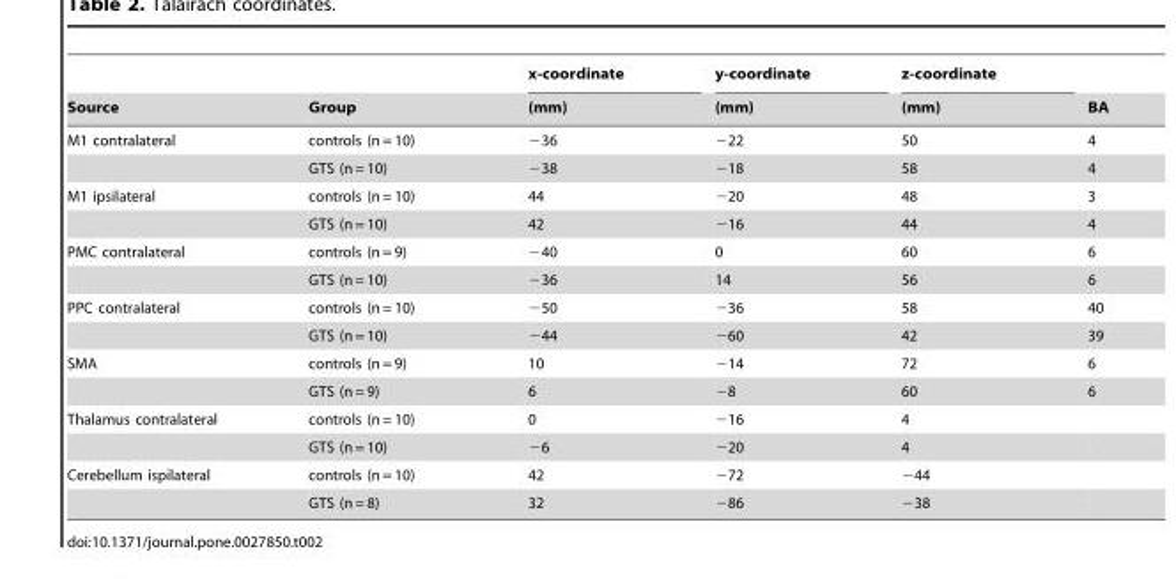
<table><thead><tr><td rowspan="2">Source</td><td rowspan="2">Group</td><td rowspan="2">x-coordinate (mm)</td><td rowspan="2">y-coordinate (mm)</td><td rowspan="2">z-coordinate (mm)</td><td rowspan="2">BA</td></tr><tr></tr></thead><tbody><tr><td rowspan="2">M1 contralateral</td><td>controls (n = 10)</td><td>−36</td><td>−22</td><td>50</td><td>4</td></tr><tr><td>GTS (n = 10)</td><td>−38</td><td>−18</td><td>58</td><td>4</td></tr><tr><td rowspan="2">M1 ipsilateral</td><td>controls (n = 10)</td><td>44</td><td>−20</td><td>48</td><td>3</td></tr><tr><td>GTS (n = 10)</td><td>42</td><td>−16</td><td>44</td><td>4</td></tr><tr><td rowspan="2">PMC contralateral</td><td>controls (n = 9)</td><td>−40</td><td>0</td><td>60</td><td>6</td></tr><tr><td>GTS (n = 10)</td><td>−36</td><td>14</td><td>56</td><td>6</td></tr><tr><td rowspan="2">PPC contralateral</td><td>controls (n = 10)</td><td>−50</td><td>−36</td><td>58</td><td>40</td></tr><tr><td>GTS (n = 10)</td><td>−44</td><td>−60</td><td>42</td><td>39</td></tr><tr><td rowspan="2">SMA</td><td>controls (n = 9)</td><td>10</td><td>−14</td><td>72</td><td>6</td></tr><tr><td>GTS (n = 9)</td><td>6</td><td>−8</td><td>60</td><td>6</td></tr><tr><td rowspan="2">Thalamus contralateral</td><td>controls (n = 10)</td><td>0</td><td>−16</td><td>4</td><td></td></tr><tr><td>GTS (n = 10)</td><td>−6</td><td>−20</td><td>4</td><td></td></tr><tr><td rowspan="2">Cerebellum ispilateral</td><td>controls (n = 10)</td><td>42</td><td>−72</td><td>−44</td><td></td></tr><tr><td>GTS (n = 8)</td><td>32</td><td>−86</td><td>−38</td><td></td></tr></tbody></table>